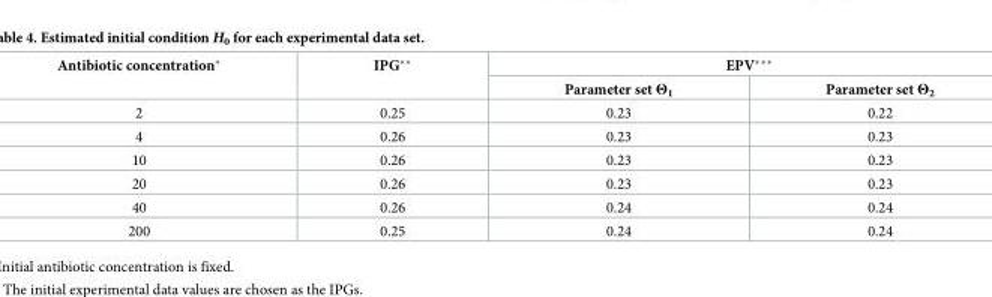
<table><thead><tr><td rowspan="2">Antibiotic concentration*</td><td rowspan="2">IPG**</td><td colspan="2">EPV***</td></tr><tr><td>Parameter set Θ<sub>1</sub></td><td>Parameter set Θ<sub>2</sub></td></tr></thead><tbody><tr><td>2</td><td>0.25</td><td>0.23</td><td>0.22</td></tr><tr><td>4</td><td>0.26</td><td>0.23</td><td>0.23</td></tr><tr><td>10</td><td>0.26</td><td>0.23</td><td>0.23</td></tr><tr><td>20</td><td>0.26</td><td>0.23</td><td>0.23</td></tr><tr><td>40</td><td>0.26</td><td>0.24</td><td>0.24</td></tr><tr><td>200</td><td>0.25</td><td>0.24</td><td>0.24</td></tr></tbody></table>